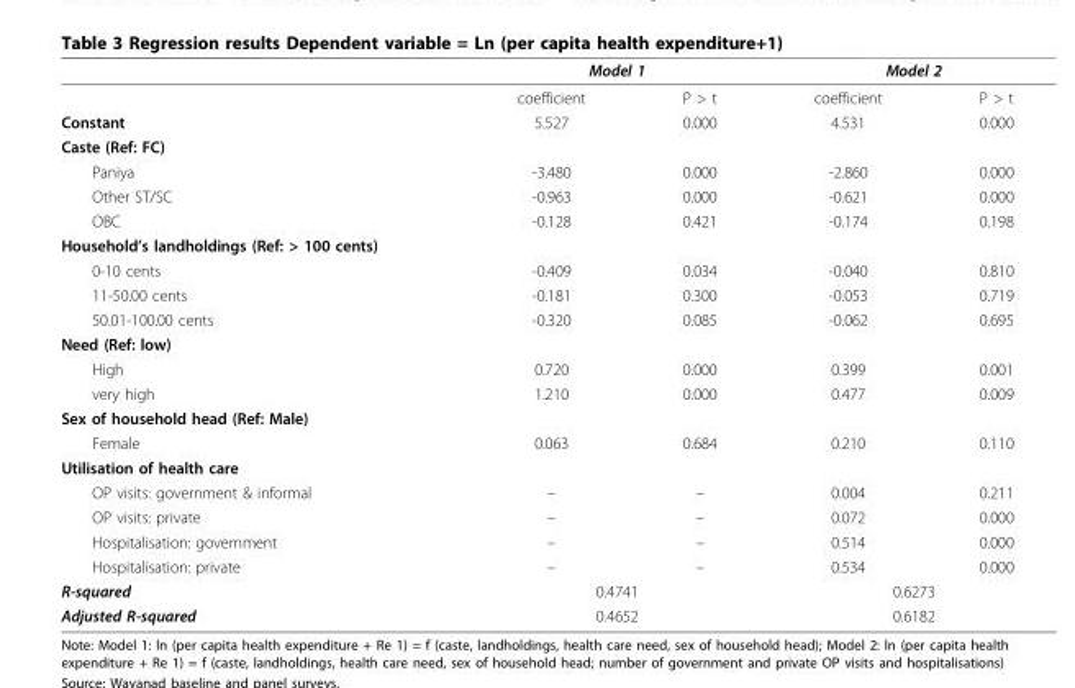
<table><thead><tr><td rowspan="2"></td><td colspan="2">Model 1</td><td colspan="2">Model 2</td></tr><tr><td>coefficient</td><td>P &gt; t</td><td>coefficient</td><td>P &gt; t</td></tr></thead><tbody><tr><td>Constant</td><td>5.527</td><td>0.000</td><td>4.531</td><td>0.000</td></tr><tr><td colspan="5">Caste (Ref: FC)</td></tr><tr><td>Paniya</td><td>-3.480</td><td>0.000</td><td>-2.860</td><td>0.000</td></tr><tr><td>Other ST/SC</td><td>-0.963</td><td>0.000</td><td>-0.621</td><td>0.000</td></tr><tr><td>OBC</td><td>-0.128</td><td>0.421</td><td>-0.174</td><td>0.198</td></tr><tr><td colspan="5">Household’s landholdings (Ref: &gt; 100 cents)</td></tr><tr><td>0-10 cents</td><td>-0.409</td><td>0.034</td><td>-0.040</td><td>0.810</td></tr><tr><td>11-50.00 cents</td><td>-0.181</td><td>0.300</td><td>-0.053</td><td>0.719</td></tr><tr><td>50.01-100.00 cents</td><td>-0.320</td><td>0.085</td><td>-0.062</td><td>0.695</td></tr><tr><td colspan="5">Need (Ref: low)</td></tr><tr><td>High</td><td>0.720</td><td>0.000</td><td>0.399</td><td>0.001</td></tr><tr><td>very high</td><td>1.210</td><td>0.000</td><td>0.477</td><td>0.009</td></tr><tr><td colspan="5">Sex of household head (Ref: Male)</td></tr><tr><td>Female</td><td>0.063</td><td>0.684</td><td>0.210</td><td>0.110</td></tr><tr><td colspan="5">Utilisation of health care</td></tr><tr><td>OP visits: government &amp; informal</td><td>–</td><td>–</td><td>0.004</td><td>0.211</td></tr><tr><td>OP visits: private</td><td>–</td><td>–</td><td>0.072</td><td>0.000</td></tr><tr><td>Hospitalisation: government</td><td>–</td><td>–</td><td>0.514</td><td>0.000</td></tr><tr><td>Hospitalisation: private</td><td>–</td><td>–</td><td>0.534</td><td>0.000</td></tr><tr><td>R-squared</td><td colspan="2">0.4741</td><td colspan="2">0.6273</td></tr><tr><td>Adjusted R-squared</td><td colspan="2">0.4652</td><td colspan="2">0.6182</td></tr></tbody></table>